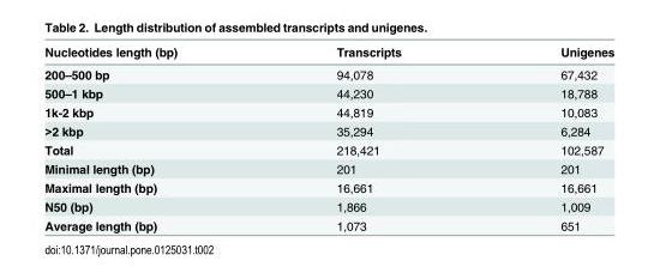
<table><thead><tr><td>Nucleotides length (bp)</td><td>Transcripts</td><td>Unigenes</td></tr></thead><tbody><tr><td>200–500 bp</td><td>94,078</td><td>67,432</td></tr><tr><td>500–1 kbp</td><td>44,230</td><td>18,788</td></tr><tr><td>1k-2 kbp</td><td>44,819</td><td>10,083</td></tr><tr><td>&gt;2 kbp</td><td>35,294</td><td>6,284</td></tr><tr><td>Total</td><td>218,421</td><td>102,587</td></tr><tr><td>Minimal length (bp)</td><td>201</td><td>201</td></tr><tr><td>Maximal length (bp)</td><td>16,661</td><td>16,661</td></tr><tr><td>N50 (bp)</td><td>1,866</td><td>1,009</td></tr><tr><td>Average length (bp)</td><td>1,073</td><td>651</td></tr></tbody></table>